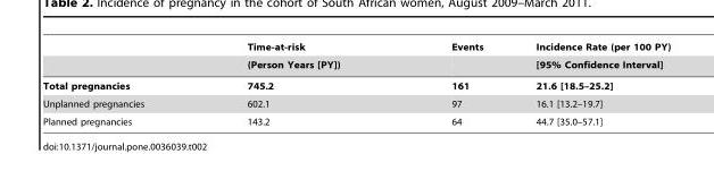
<table><thead><tr><td rowspan="2"></td><td rowspan="2">Time-at-risk (Person Years [PY])</td><td rowspan="2">Events</td><td rowspan="2">Incidence Rate (per 100 PY) [95% Confidence Interval]</td></tr><tr></tr></thead><tbody><tr><td>Total pregnancies</td><td>745.2</td><td>161</td><td>21.6 [18.5–25.2]</td></tr><tr><td>Unplanned pregnancies</td><td>602.1</td><td>97</td><td>16.1 [13.2–19.7]</td></tr><tr><td>Planned pregnancies</td><td>143.2</td><td>64</td><td>44.7 [35.0–57.1]</td></tr></tbody></table>